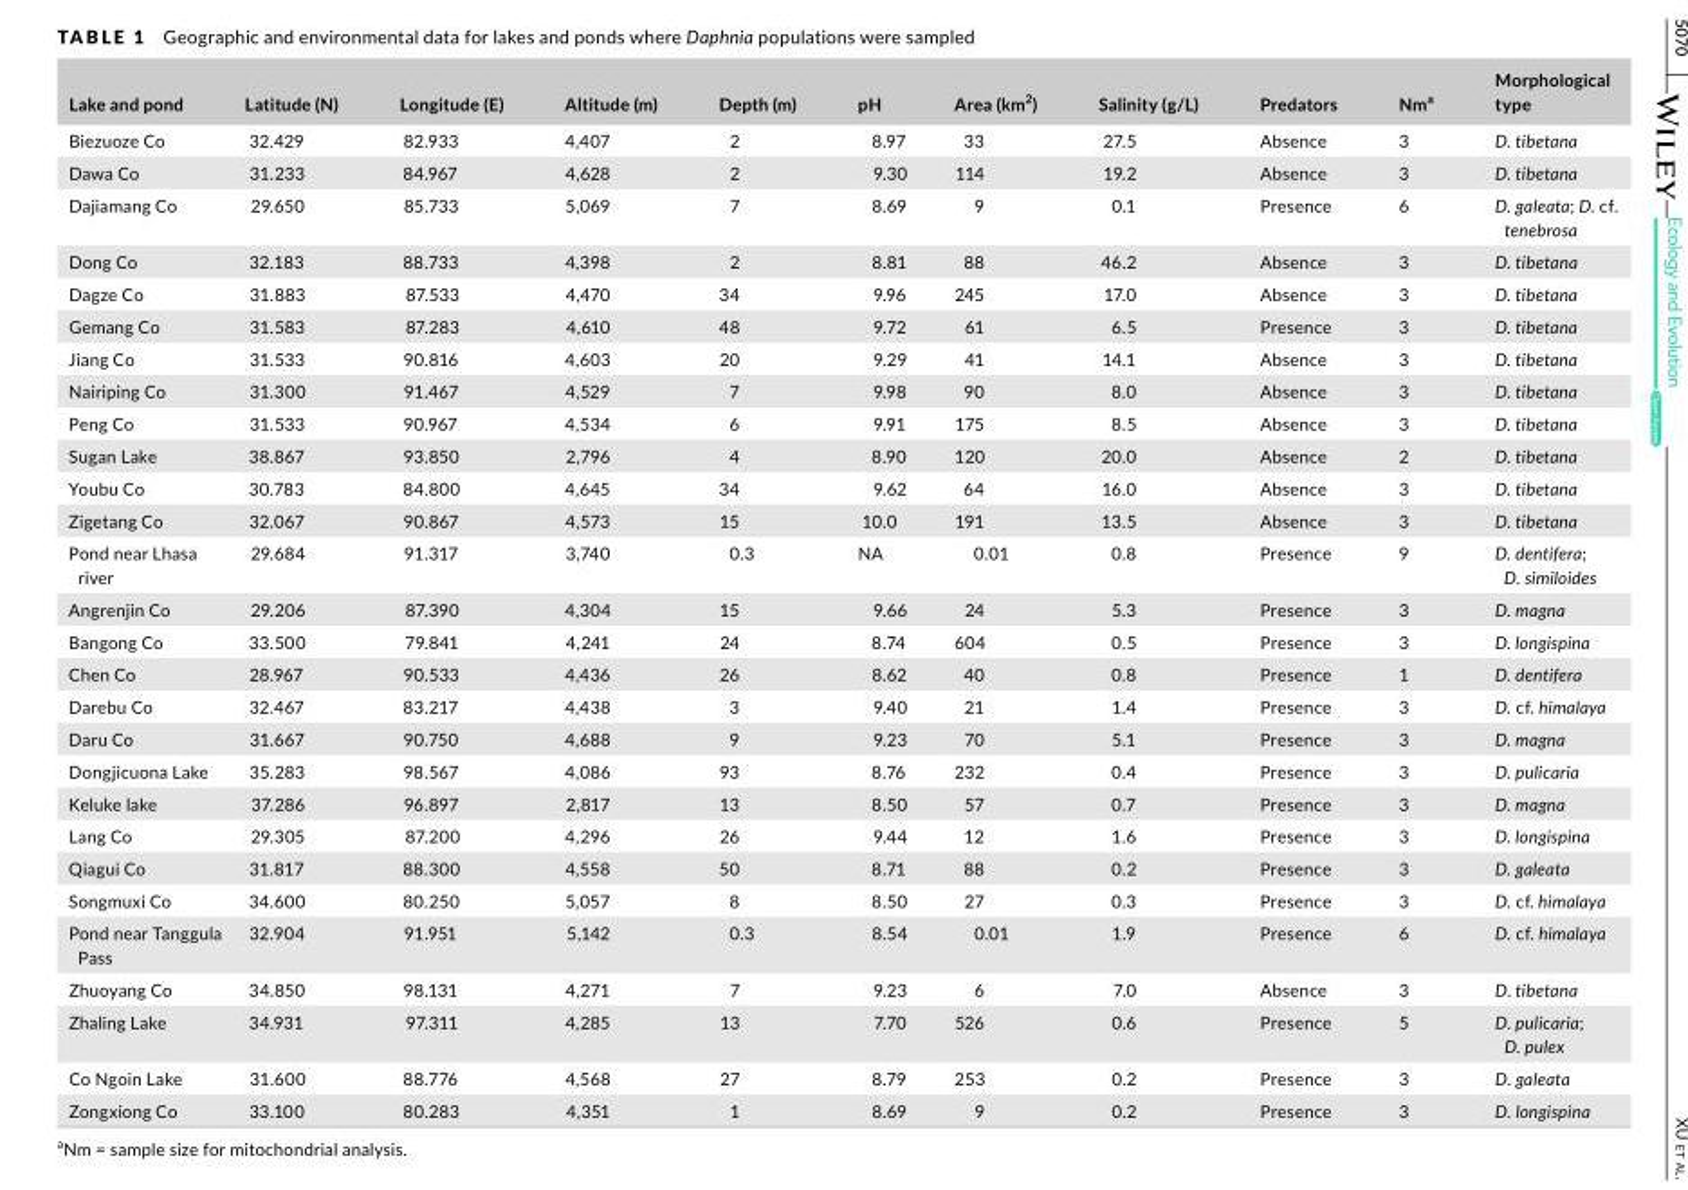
<table><thead><tr><td>Lake and pond</td><td>Latitude (N)</td><td>Longitude (E)</td><td>Altitude (m)</td><td>Depth (m)</td><td>pH</td><td>Area (km<sup>2</sup>)</td><td>Salinity (g/L)</td><td>Predators</td><td>Nm<sup>a</sup></td><td>Morphological type</td></tr></thead><tbody><tr><td>Biezuoze Co</td><td>32.429</td><td>82.933</td><td>4,407</td><td>2</td><td>8.97</td><td>33</td><td>27.5</td><td>Absence</td><td>3</td><td>D. tibetana</td></tr><tr><td>Dawa Co</td><td>31.233</td><td>84.967</td><td>4,628</td><td>2</td><td>9.30</td><td>114</td><td>19.2</td><td>Absence</td><td>3</td><td>D. tibetana</td></tr><tr><td>Dajiamang Co</td><td>29.650</td><td>85.733</td><td>5,069</td><td>7</td><td>8.69</td><td>9</td><td>0.1</td><td>Presence</td><td>6</td><td>D. galeata; D. cf. tenebrosa</td></tr><tr><td>Dong Co</td><td>32.183</td><td>88.733</td><td>4,398</td><td>2</td><td>8.81</td><td>88</td><td>46.2</td><td>Absence</td><td>3</td><td>D. tibetana</td></tr><tr><td>Dagze Co</td><td>31.883</td><td>87.533</td><td>4,470</td><td>34</td><td>9.96</td><td>245</td><td>17.0</td><td>Absence</td><td>3</td><td>D. tibetana</td></tr><tr><td>Gemang Co</td><td>31.583</td><td>87.283</td><td>4,610</td><td>48</td><td>9.72</td><td>61</td><td>6.5</td><td>Presence</td><td>3</td><td>D. tibetana</td></tr><tr><td>Jiang Co</td><td>31.533</td><td>90.816</td><td>4,603</td><td>20</td><td>9.29</td><td>41</td><td>14.1</td><td>Absence</td><td>3</td><td>D. tibetana</td></tr><tr><td>Nairiping Co</td><td>31.300</td><td>91.467</td><td>4,529</td><td>7</td><td>9.98</td><td>90</td><td>8.0</td><td>Absence</td><td>3</td><td>D. tibetana</td></tr><tr><td>Peng Co</td><td>31.533</td><td>90.967</td><td>4,534</td><td>6</td><td>9.91</td><td>175</td><td>8.5</td><td>Absence</td><td>3</td><td>D. tibetana</td></tr><tr><td>Sugan Lake</td><td>38.867</td><td>93.850</td><td>2,796</td><td>4</td><td>8.90</td><td>120</td><td>20.0</td><td>Absence</td><td>2</td><td>D. tibetana</td></tr><tr><td>Youbu Co</td><td>30.783</td><td>84.800</td><td>4,645</td><td>34</td><td>9.62</td><td>64</td><td>16.0</td><td>Absence</td><td>3</td><td>D. tibetana</td></tr><tr><td>Zigetang Co</td><td>32.067</td><td>90.867</td><td>4,573</td><td>15</td><td>10.0</td><td>191</td><td>13.5</td><td>Absence</td><td>3</td><td>D. tibetana</td></tr><tr><td>Pond near Lhasa river</td><td>29.684</td><td>91.317</td><td>3,740</td><td>0.3</td><td>NA</td><td>0.01</td><td>0.8</td><td>Presence</td><td>9</td><td>D. dentifera; D. similoides</td></tr><tr><td>Angrenjin Co</td><td>29.206</td><td>87.390</td><td>4,304</td><td>15</td><td>9.66</td><td>24</td><td>5.3</td><td>Presence</td><td>3</td><td>D. magna</td></tr><tr><td>Bangong Co</td><td>33.500</td><td>79.841</td><td>4,241</td><td>24</td><td>8.74</td><td>604</td><td>0.5</td><td>Presence</td><td>3</td><td>D. longispina</td></tr><tr><td>Chen Co</td><td>28.967</td><td>90.533</td><td>4,436</td><td>26</td><td>8.62</td><td>40</td><td>0.8</td><td>Presence</td><td>1</td><td>D. dentifera</td></tr><tr><td>Darebu Co</td><td>32.467</td><td>83.217</td><td>4,438</td><td>3</td><td>9.40</td><td>21</td><td>1.4</td><td>Presence</td><td>3</td><td>D. cf. himalaya</td></tr><tr><td>Daru Co</td><td>31.667</td><td>90.750</td><td>4,688</td><td>9</td><td>9.23</td><td>70</td><td>5.1</td><td>Presence</td><td>3</td><td>D. magna</td></tr><tr><td>Dongjicuona Lake</td><td>35.283</td><td>98.567</td><td>4,086</td><td>93</td><td>8.76</td><td>232</td><td>0.4</td><td>Presence</td><td>3</td><td>D. pulicaria</td></tr><tr><td>Keluke lake</td><td>37.286</td><td>96.897</td><td>2,817</td><td>13</td><td>8.50</td><td>57</td><td>0.7</td><td>Presence</td><td>3</td><td>D. magna</td></tr><tr><td>Lang Co</td><td>29.305</td><td>87.200</td><td>4,296</td><td>26</td><td>9.44</td><td>12</td><td>1.6</td><td>Presence</td><td>3</td><td>D. longispina</td></tr><tr><td>Qiagui Co</td><td>31.817</td><td>88.300</td><td>4,558</td><td>50</td><td>8.71</td><td>88</td><td>0.2</td><td>Presence</td><td>3</td><td>D. galeata</td></tr><tr><td>Songmuxi Co</td><td>34.600</td><td>80.250</td><td>5,057</td><td>8</td><td>8.50</td><td>27</td><td>0.3</td><td>Presence</td><td>3</td><td>D. cf. himalaya</td></tr><tr><td>Pond near Tanggula Pass</td><td>32.904</td><td>91.951</td><td>5,142</td><td>0.3</td><td>8.54</td><td>0.01</td><td>1.9</td><td>Presence</td><td>6</td><td>D. cf. himalaya</td></tr><tr><td>Zhuoyang Co</td><td>34.850</td><td>98.131</td><td>4,271</td><td>7</td><td>9.23</td><td>6</td><td>7.0</td><td>Absence</td><td>3</td><td>D. tibetana</td></tr><tr><td>Zhaling Lake</td><td>34.931</td><td>97.311</td><td>4,285</td><td>13</td><td>7.70</td><td>526</td><td>0.6</td><td>Presence</td><td>5</td><td>D. pulicaria; D. pulex</td></tr><tr><td>Co Ngoin Lake</td><td>31.600</td><td>88.776</td><td>4,568</td><td>27</td><td>8.79</td><td>253</td><td>0.2</td><td>Presence</td><td>3</td><td>D. galeata</td></tr><tr><td>Zongxiong Co</td><td>33.100</td><td>80.283</td><td>4,351</td><td>1</td><td>8.69</td><td>9</td><td>0.2</td><td>Presence</td><td>3</td><td>D. longispina</td></tr></tbody></table>